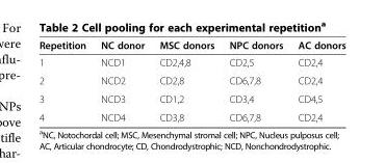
<table><thead><tr><td>Repetition</td><td>NC donor</td><td>MSC donors</td><td>NPC donors</td><td>AC donors</td></tr></thead><tbody><tr><td>1</td><td>NCD1</td><td>CD2,4,8</td><td>CD2,5</td><td>CD2,4</td></tr><tr><td>2</td><td>NCD2</td><td>CD2,8</td><td>CD6,7,8</td><td>CD2,4</td></tr><tr><td>3</td><td>NCD3</td><td>CD1,2</td><td>CD3,4</td><td>CD4,5</td></tr><tr><td>4</td><td>NCD4</td><td>CD3,8</td><td>CD6,7,8</td><td>CD2,4</td></tr></tbody></table>